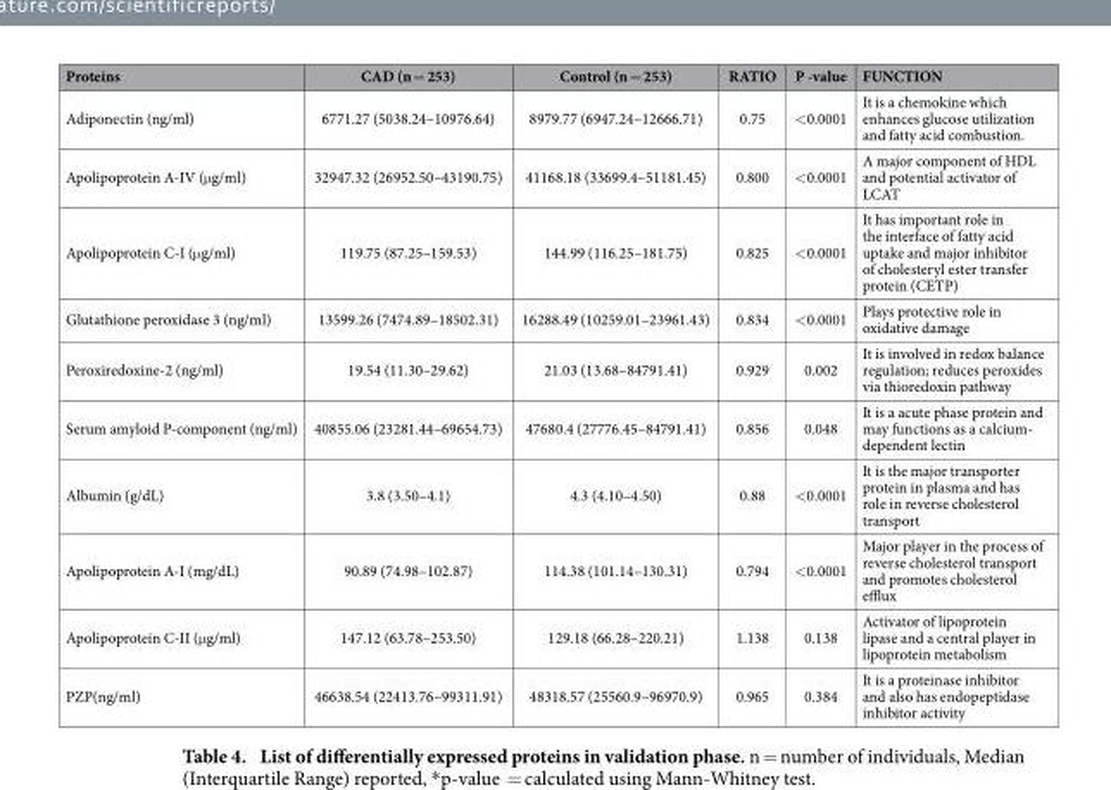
<table><thead><tr><td>Proteins</td><td>CAD (n = 253)</td><td>Control (n = 253)</td><td>RATIO</td><td>P -value</td><td>FUNCTION</td></tr></thead><tbody><tr><td>Adiponectin (ng/ml)</td><td>6771.27 (5038.24–10976.64)</td><td>8979.77 (6947.24–12666.71)</td><td>0.75</td><td>&lt; 0.0001</td><td>It is a chemokine which enhances glucose utilization and fatty acid combustion.</td></tr><tr><td>Apolipoprotein A-IV (μ g/ml)</td><td>32947.32 (26952.50–43190.75)</td><td>41168.18 (33699.4–51181.45)</td><td>0.800</td><td>&lt; 0.0001</td><td>A major component of HDL and potential activator of LCAT</td></tr><tr><td>Apolipoprotein C-I (μ g/ml)</td><td>119.75 (87.25–159.53)</td><td>144.99 (116.25–181.75)</td><td>0.825</td><td>&lt; 0.0001</td><td>It has important role in the interface of fatty acid uptake and major inhibitor of cholesteryl ester transfer protein (CETP)</td></tr><tr><td>Glutathione peroxidase 3 (ng/ml)</td><td>13599.26 (7474.89–18502.31)</td><td>16288.49 (10259.01–23961.43)</td><td>0.834</td><td>&lt; 0.0001</td><td>Plays protective role in oxidative damage</td></tr><tr><td>Peroxiredoxine-2 (ng/ml)</td><td>19.54 (11.30–29.62)</td><td>21.03 (13.68–84791.41)</td><td>0.929</td><td>0.002</td><td>It is involved in redox balance regulation; reduces peroxides via thioredoxin pathway</td></tr><tr><td>Serum amyloid P-component (ng/ml)</td><td>40855.06 (23281.44–69654.73)</td><td>47680.4 (27776.45–84791.41)</td><td>0.856</td><td>0.048</td><td>It is a acute phase protein and may functions as a calcium- dependent lectin</td></tr><tr><td>Albumin (g/dL)</td><td>3.8 (3.50–4.1)</td><td>4.3 (4.10–4.50)</td><td>0.88</td><td>&lt; 0.0001</td><td>It is the major transporter protein in plasma and has role in reverse cholesterol transport</td></tr><tr><td>Apolipoprotein A-I (mg/dL)</td><td>90.89 (74.98–102.87)</td><td>114.38 (101.14–130.31)</td><td>0.794</td><td>&lt; 0.0001</td><td>Major player in the process of reverse cholesterol transport and promotes cholesterol efflux</td></tr><tr><td>Apolipoprotein C-II (μ g/ml)</td><td>147.12 (63.78–253.50)</td><td>129.18 (66.28–220.21)</td><td>1.138</td><td>0.138</td><td>Activator of lipoprotein lipase and a central player in lipoprotein metabolism</td></tr><tr><td>PZP(ng/ml)</td><td>46638.54 (22413.76–99311.91)</td><td>48318.57 (25560.9–96970.9)</td><td>0.965</td><td>0.384</td><td>It is a proteinase inhibitor and also has endopeptidase inhibitor activity</td></tr></tbody></table>